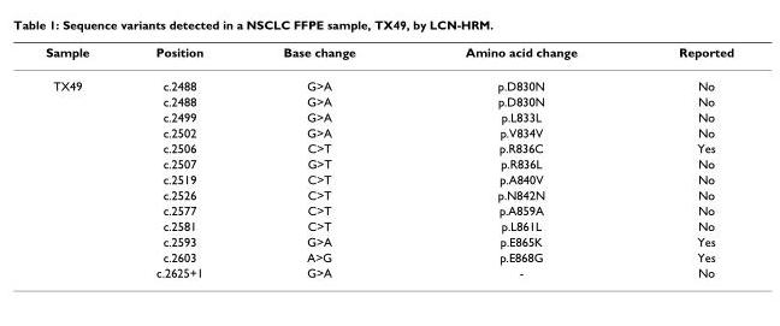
<table><thead><tr><td>Sample</td><td>Position</td><td>Base change</td><td>Amino acid change</td><td>Reported</td></tr></thead><tbody><tr><td rowspan="13">TX49</td><td>c.2488</td><td>G&gt;A</td><td>p.D830N</td><td>No</td></tr><tr><td>c.2488</td><td>G&gt;A</td><td>p.D830N</td><td>No</td></tr><tr><td>c.2499</td><td>G&gt;A</td><td>p.L833L</td><td>No</td></tr><tr><td>c.2502</td><td>G&gt;A</td><td>p.V834V</td><td>No</td></tr><tr><td>c.2506</td><td>C&gt;T</td><td>p.R836C</td><td>Yes</td></tr><tr><td>c.2507</td><td>G&gt;T</td><td>p.R836L</td><td>No</td></tr><tr><td>c.2519</td><td>C&gt;T</td><td>p.A840V</td><td>No</td></tr><tr><td>c.2526</td><td>C&gt;T</td><td>p.N842N</td><td>No</td></tr><tr><td>c.2577</td><td>C&gt;T</td><td>p.A859A</td><td>No</td></tr><tr><td>c.2581</td><td>C&gt;T</td><td>p.L861L</td><td>No</td></tr><tr><td>c.2593</td><td>G&gt;A</td><td>p.E865K</td><td>Yes</td></tr><tr><td>c.2603</td><td>A&gt;G</td><td>p.E868G</td><td>Yes</td></tr><tr><td>c.2625+1</td><td>G&gt;A</td><td>-</td><td>No</td></tr></tbody></table>